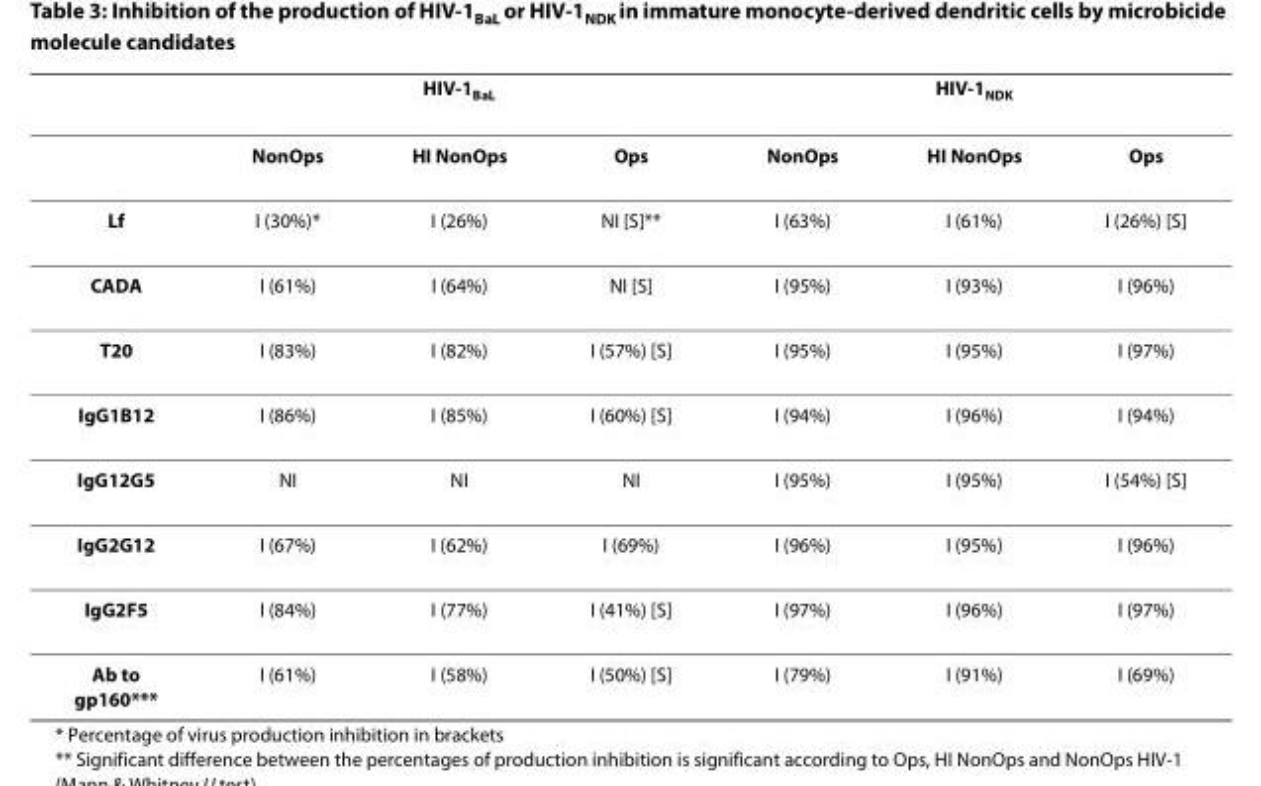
<table><thead><tr><td rowspan="2"></td><td colspan="3">HIV-1<sub>BaL</sub></td><td colspan="3">HIV-1<sub>NDK</sub></td></tr><tr><td>NonOps</td><td>HI NonOps</td><td>Ops</td><td>NonOps</td><td>HI NonOps</td><td>Ops</td></tr></thead><tbody><tr><td>Lf</td><td>I (30%)*</td><td>I (26%)</td><td>NI [S]**</td><td>I (63%)</td><td>I (61%)</td><td>I (26%) [S]</td></tr><tr><td>CADA</td><td>I (61%)</td><td>I (64%)</td><td>NI [S]</td><td>I (95%)</td><td>I (93%)</td><td>I (96%)</td></tr><tr><td>T20</td><td>I (83%)</td><td>I (82%)</td><td>I (57%) [S]</td><td>I (95%)</td><td>I (95%)</td><td>I (97%)</td></tr><tr><td>IgG1B12</td><td>I (86%)</td><td>I (85%)</td><td>I (60%) [S]</td><td>I (94%)</td><td>I (96%)</td><td>I (94%)</td></tr><tr><td>IgG12G5</td><td>NI</td><td>NI</td><td>NI</td><td>I (95%)</td><td>I (95%)</td><td>I (54%) [S]</td></tr><tr><td>IgG2G12</td><td>I (67%)</td><td>I (62%)</td><td>I (69%)</td><td>I (96%)</td><td>I (95%)</td><td>I (96%)</td></tr><tr><td>IgG2F5</td><td>I (84%)</td><td>I (77%)</td><td>I (41%) [S]</td><td>I (97%)</td><td>I (96%)</td><td>I (97%)</td></tr><tr><td>Ab to gp160***</td><td>I (61%)</td><td>I (58%)</td><td>I (50%) [S]</td><td>I (79%)</td><td>I (91%)</td><td>I (69%)</td></tr></tbody></table>